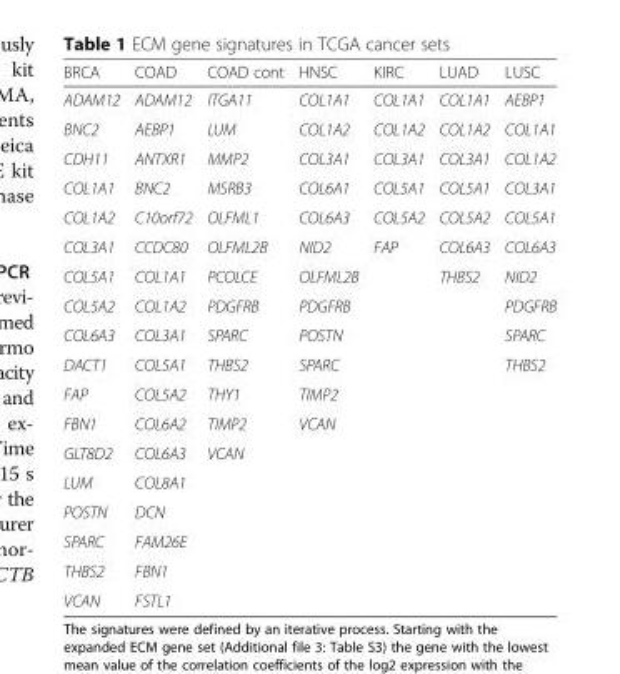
<table><thead><tr><td>BRCA</td><td>COAD</td><td>COAD cont</td><td>HNSC</td><td>KIRC</td><td>LUAD</td><td>LUSC</td></tr></thead><tbody><tr><td>ADAM12</td><td>ADAM12</td><td>ITGA11</td><td>COL1A1</td><td>COL1A1</td><td>COL1A1</td><td>AEBP1</td></tr><tr><td>BNC2</td><td>AEBP1</td><td>LUM</td><td>COL1A2</td><td>COL1A2</td><td>COL1A2</td><td>COL1A1</td></tr><tr><td>CDH11</td><td>ANTXR1</td><td>MMP2</td><td>COL3A1</td><td>COL3A1</td><td>COL3A1</td><td>COL1A2</td></tr><tr><td>COL1A1</td><td>BNC2</td><td>MSRB3</td><td>COL6A1</td><td>COL5A1</td><td>COL5A1</td><td>COL3A1</td></tr><tr><td>COL1A2</td><td>C10orf72</td><td>OLFML1</td><td>COL6A3</td><td>COL5A2</td><td>COL5A2</td><td>COL5A1</td></tr><tr><td>COL3A1</td><td>CCDC80</td><td>OLFML2B</td><td>NID2</td><td>FAP</td><td>COL6A3</td><td>COL6A3</td></tr><tr><td>COL5A1</td><td>COL1A1</td><td>PCOLCE</td><td>OLFML2B</td><td></td><td>THBS2</td><td>NID2</td></tr><tr><td>COL5A2</td><td>COL1A2</td><td>PDGFRB</td><td>PDGFRB</td><td></td><td></td><td>PDGFRB</td></tr><tr><td>COL6A3</td><td>COL3A1</td><td>SPARC</td><td>POSTN</td><td></td><td></td><td>SPARC</td></tr><tr><td>DACT1</td><td>COL5A1</td><td>THBS2</td><td>SPARC</td><td></td><td></td><td>THBS2</td></tr><tr><td>FAP</td><td>COL5A2</td><td>THY1</td><td>TIMP2</td><td></td><td></td><td></td></tr><tr><td>FBN1</td><td>COL6A2</td><td>TIMP2</td><td>VCAN</td><td></td><td></td><td></td></tr><tr><td>GLT8D2</td><td>COL6A3</td><td>VCAN</td><td></td><td></td><td></td><td></td></tr><tr><td>LUM</td><td>COL8A1</td><td></td><td></td><td></td><td></td><td></td></tr><tr><td>POSTN</td><td>DCN</td><td></td><td></td><td></td><td></td><td></td></tr><tr><td>SPARC</td><td>FAM26E</td><td></td><td></td><td></td><td></td><td></td></tr><tr><td>THBS2</td><td>FBN1</td><td></td><td></td><td></td><td></td><td></td></tr><tr><td>VCAN</td><td>FSTL1</td><td></td><td></td><td></td><td></td><td></td></tr></tbody></table>